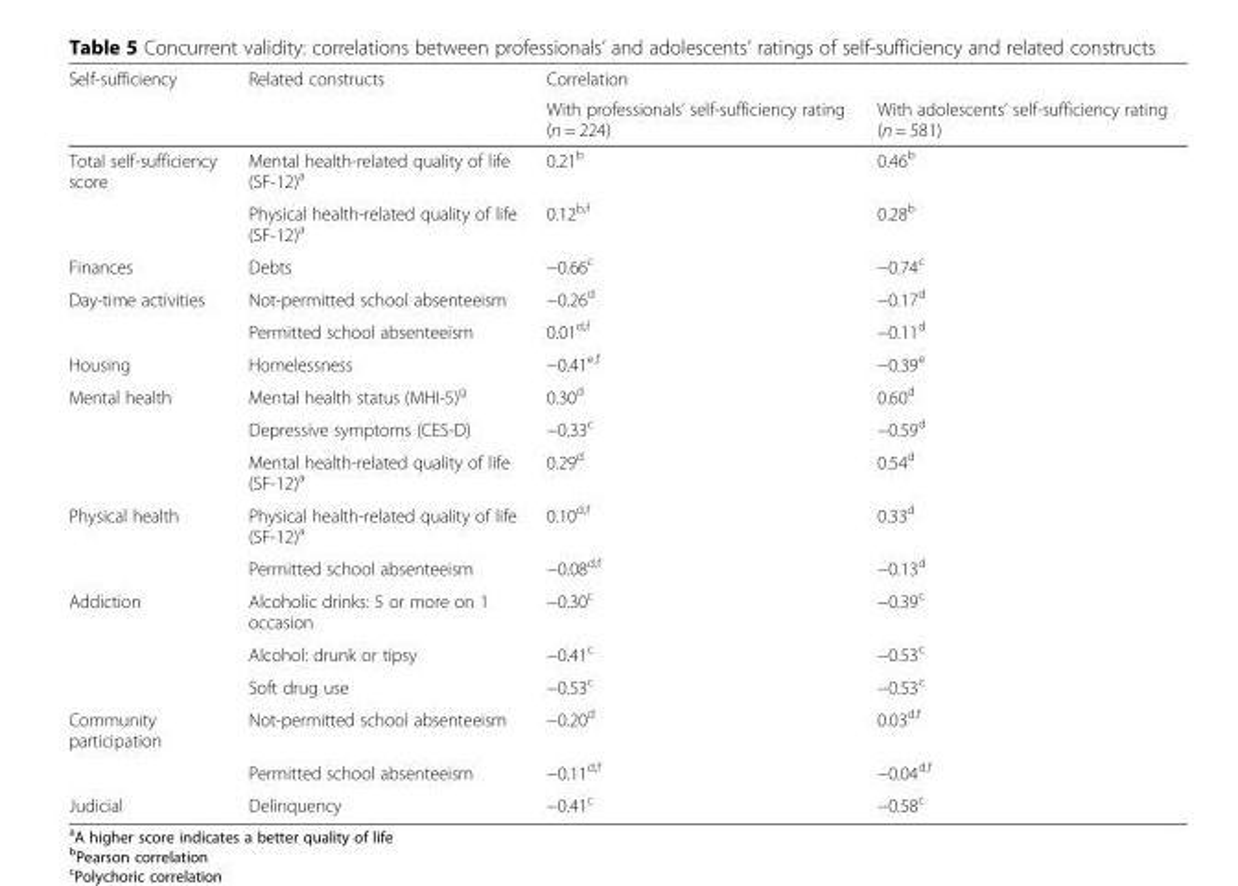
<table><thead><tr><td rowspan="2">Self-sufficiency</td><td rowspan="2">Related constructs</td><td rowspan="2">Correlation With professionals’ self-sufficiency rating (n = 224)</td><td rowspan="2">With adolescents’ self-sufficiency rating (n = 581)</td></tr><tr></tr></thead><tbody><tr><td rowspan="2">Total self-sufficiency score</td><td>Mental health-related quality of life (SF-12)<sup>a</sup></td><td>0.21<sup>b</sup></td><td>0.46<sup>b</sup></td></tr><tr><td>Physical health-related quality of life (SF-12)<sup>a</sup></td><td>0.12<sup>b,f</sup></td><td>0.28<sup>b</sup></td></tr><tr><td>Finances</td><td>Debts</td><td>−0.66<sup>c</sup></td><td>−0.74<sup>c</sup></td></tr><tr><td rowspan="2">Day-time activities</td><td>Not-permitted school absenteeism</td><td>−0.26<sup>d</sup></td><td>−0.17<sup>d</sup></td></tr><tr><td>Permitted school absenteeism</td><td>0.01<sup>d,f</sup></td><td>−0.11<sup>d</sup></td></tr><tr><td>Housing</td><td>Homelessness</td><td>−0.41<sup>e,f</sup></td><td>−0.39<sup>e</sup></td></tr><tr><td rowspan="3">Mental health</td><td>Mental health status (MHI-5)<sup>g</sup></td><td>0.30<sup>d</sup></td><td>0.60<sup>d</sup></td></tr><tr><td>Depressive symptoms (CES-D)</td><td>−0.33<sup>c</sup></td><td>−0.59<sup>d</sup></td></tr><tr><td>Mental health-related quality of life (SF-12)<sup>a</sup></td><td>0.29<sup>d</sup></td><td>0.54<sup>d</sup></td></tr><tr><td rowspan="2">Physical health</td><td>Physical health-related quality of life (SF-12)<sup>a</sup></td><td>0.10<sup>d,f</sup></td><td>0.33<sup>d</sup></td></tr><tr><td>Permitted school absenteeism</td><td>−0.08<sup>d,f</sup></td><td>−0.13<sup>d</sup></td></tr><tr><td rowspan="3">Addiction</td><td>Alcoholic drinks: 5 or more on 1 occasion</td><td>−0.30<sup>c</sup></td><td>−0.39<sup>c</sup></td></tr><tr><td>Alcohol: drunk or tipsy</td><td>−0.41<sup>c</sup></td><td>−0.53<sup>c</sup></td></tr><tr><td>Soft drug use</td><td>−0.53<sup>c</sup></td><td>−0.53<sup>c</sup></td></tr><tr><td rowspan="2">Community participation</td><td>Not-permitted school absenteeism</td><td>−0.20<sup>d</sup></td><td>0.03<sup>d,f</sup></td></tr><tr><td>Permitted school absenteeism</td><td>−0.11<sup>d,f</sup></td><td>−0.04<sup>d,f</sup></td></tr><tr><td>Judicial</td><td>Delinquency</td><td>−0.41<sup>c</sup></td><td>−0.58<sup>c</sup></td></tr></tbody></table>